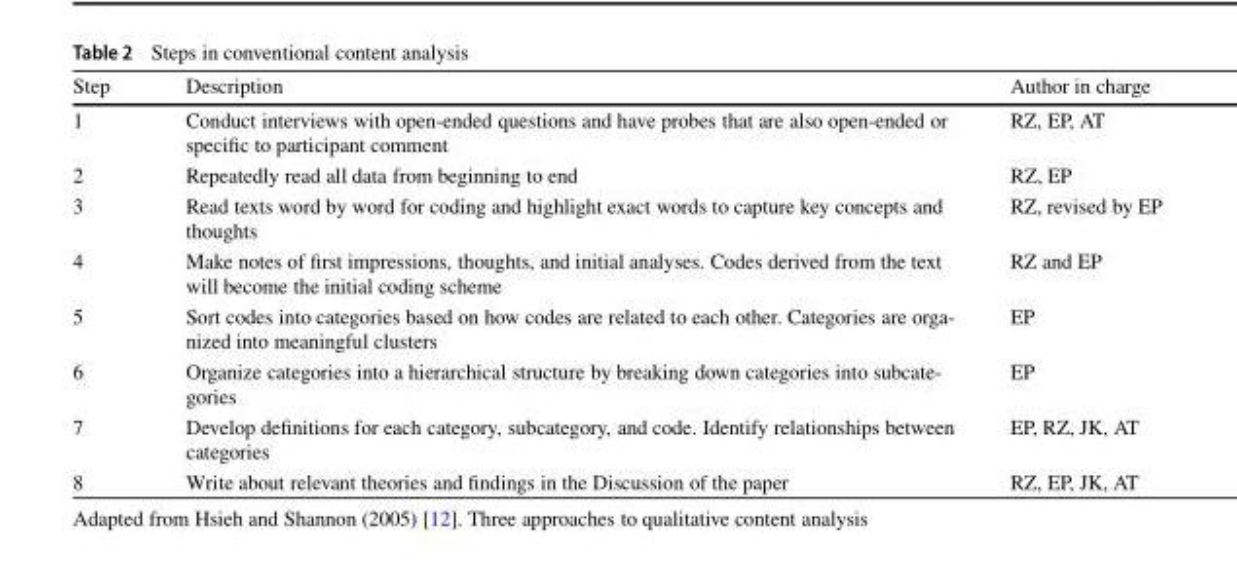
<table><thead><tr><td>Step</td><td>Description</td><td>Author in charge</td></tr></thead><tbody><tr><td>1</td><td>Conduct interviews with open-ended questions and have probes that are also open-ended or specific to participant comment</td><td>RZ, EP, AT</td></tr><tr><td>2</td><td>Repeatedly read all data from beginning to end</td><td>RZ, EP</td></tr><tr><td>3</td><td>Read texts word by word for coding and highlight exact words to capture key concepts and thoughts</td><td>RZ, revised by EP</td></tr><tr><td>4</td><td>Make notes of first impressions, thoughts, and initial analyses. Codes derived from the text will become the initial coding scheme</td><td>RZ and EP</td></tr><tr><td>5</td><td>Sort codes into categories based on how codes are related to each other. Categories are orga- nized into meaningful clusters</td><td>EP</td></tr><tr><td>6</td><td>Organize categories into a hierarchical structure by breaking down categories into subcate- gories</td><td>EP</td></tr><tr><td>7</td><td>Develop definitions for each category, subcategory, and code. Identify relationships between categories</td><td>EP, RZ, JK, AT</td></tr><tr><td>8</td><td>Write about relevant theories and findings in the Discussion of the paper</td><td>RZ, EP, JK, AT</td></tr></tbody></table>